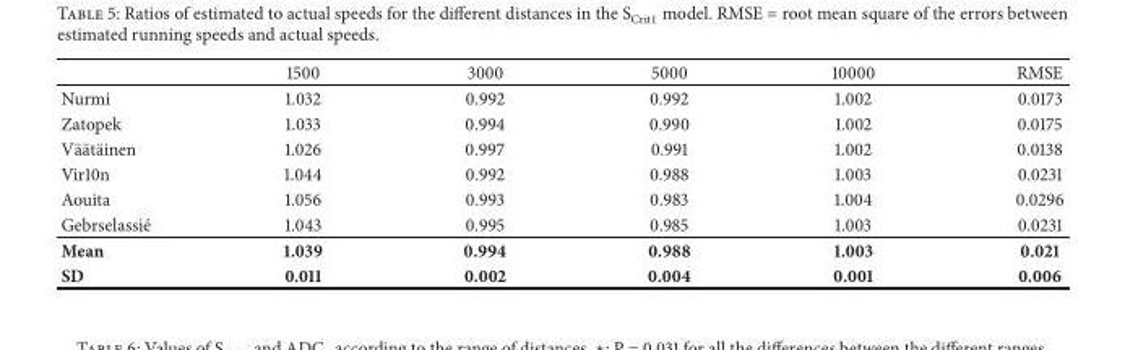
<table><thead><tr><td></td><td>1500</td><td>3000</td><td>5000</td><td>10000</td><td>RMSE</td></tr></thead><tbody><tr><td>Nurmi</td><td>1.032</td><td>0.992</td><td>0.992</td><td>1.002</td><td>0.0173</td></tr><tr><td>Zatopek</td><td>1.033</td><td>0.994</td><td>0.990</td><td>1.002</td><td>0.0175</td></tr><tr><td>V¨a¨at¨ainen</td><td>1.026</td><td>0.997</td><td>0.991</td><td>1.002</td><td>0.0138</td></tr><tr><td>Vir10n</td><td>1.044</td><td>0.992</td><td>0.988</td><td>1.003</td><td>0.0231</td></tr><tr><td>Aouita</td><td>1.056</td><td>0.993</td><td>0.983</td><td>1.004</td><td>0.0296</td></tr><tr><td>Gebrselassi´e</td><td>1.043</td><td>0.995</td><td>0.985</td><td>1.003</td><td>0.0231</td></tr><tr><td>Mean</td><td>1.039</td><td>0.994</td><td>0.988</td><td>1.003</td><td>0.021</td></tr><tr><td>SD</td><td>0.011</td><td>0.002</td><td>0.004</td><td>0.001</td><td>0.006</td></tr></tbody></table>